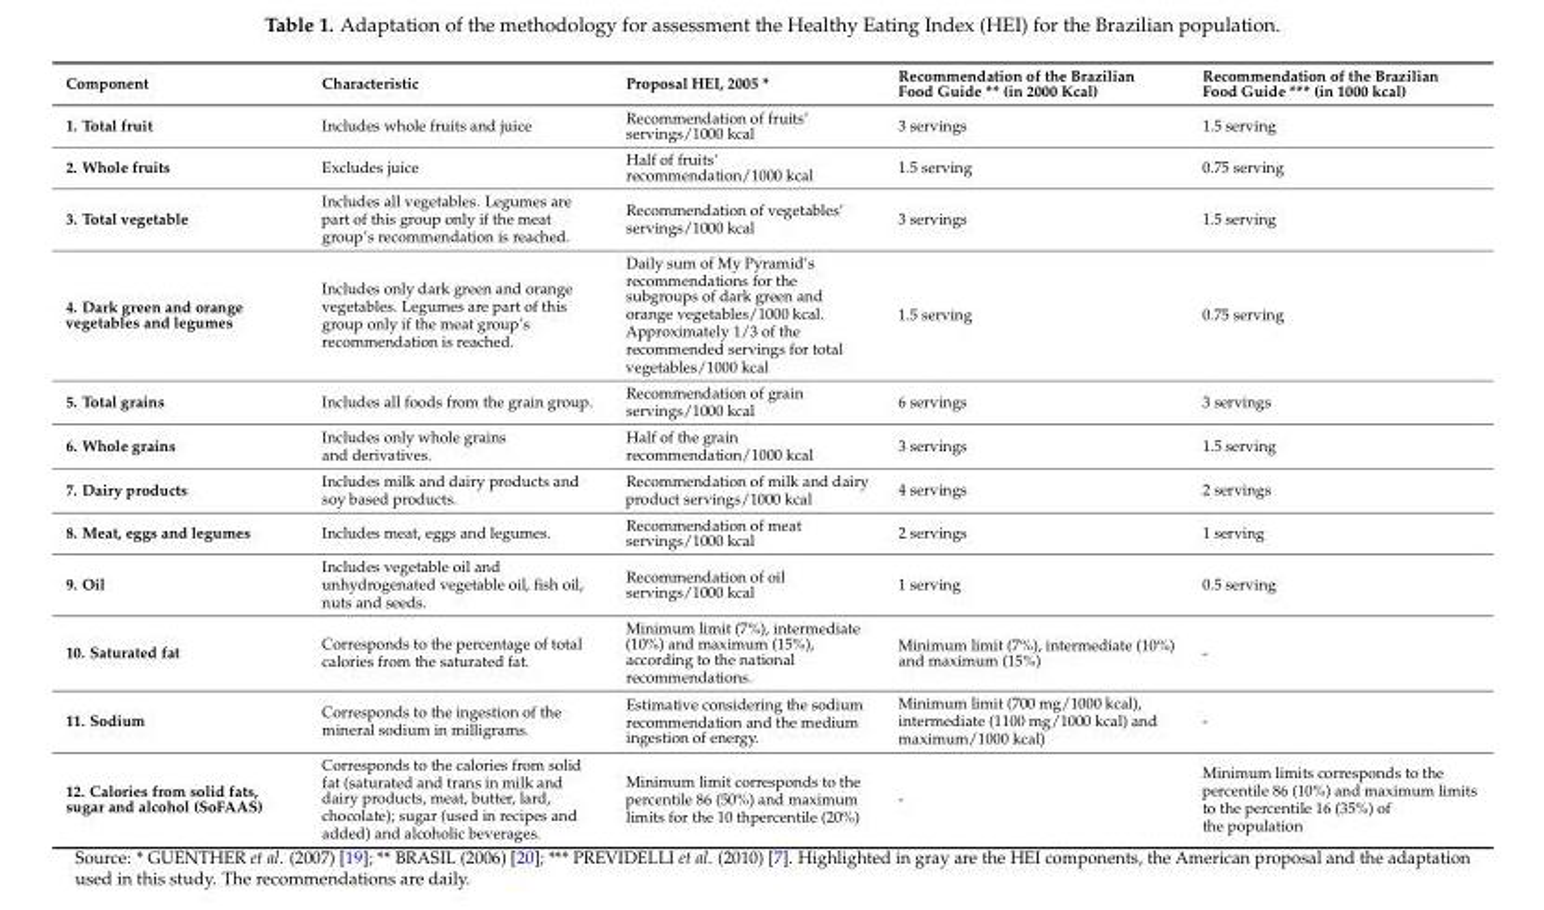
<table><thead><tr><td>Component</td><td>Characteristic</td><td>Proposal HEI, 2005 *</td><td>Recommendation of the Brazilian Food Guide ** (in 2000 Kcal)</td><td>Recommendation of the Brazilian Food Guide *** (in 1000 kcal)</td></tr></thead><tbody><tr><td>1. Total fruit</td><td>Includes whole fruits and juice</td><td>Recommendation of fruits’ servings/1000 kcal</td><td>3 servings</td><td>1.5 serving</td></tr><tr><td>2. Whole fruits</td><td>Excludes juice</td><td>Half of fruits’ recommendation/1000 kcal</td><td>1.5 serving</td><td>0.75 serving</td></tr><tr><td>3. Total vegetable</td><td>Includes all vegetables. Legumes are part of this group only if the meat group’s recommendation is reached.</td><td>Recommendation of vegetables’ servings/1000 kcal</td><td>3 servings</td><td>1.5 serving</td></tr><tr><td>4. Dark green and orange vegetables and legumes</td><td>Includes only dark green and orange vegetables. Legumes are part of this group only if the meat group’s recommendation is reached.</td><td>Daily sum of My Pyramid’s recommendations for the subgroups of dark green and orange vegetables/1000 kcal. Approximately 1/3 of the recommended servings for total vegetables/1000 kcal</td><td>1.5 serving</td><td>0.75 serving</td></tr><tr><td>5. Total grains</td><td>Includes all foods from the grain group.</td><td>Recommendation of grain servings/1000 kcal</td><td>6 servings</td><td>3 servings</td></tr><tr><td>6. Whole grains</td><td>Includes only whole grains and derivatives.</td><td>Half of the grain recommendation/1000 kcal</td><td>3 servings</td><td>1.5 serving</td></tr><tr><td>7. Dairy products</td><td>Includes milk and dairy products and soy based products.</td><td>Recommendation of milk and dairy product servings/1000 kcal</td><td>4 servings</td><td>2 servings</td></tr><tr><td>8. Meat, eggs and legumes</td><td>Includes meat, eggs and legumes.</td><td>Recommendation of meat servings/1000 kcal</td><td>2 servings</td><td>1 serving</td></tr><tr><td>9. Oil</td><td>Includes vegetable oil and unhydrogenated vegetable oil, fish oil, nuts and seeds.</td><td>Recommendation of oil servings/1000 kcal</td><td>1 serving</td><td>0.5 serving</td></tr><tr><td>10. Saturated fat</td><td>Corresponds to the percentage of total calories from the saturated fat.</td><td>Minimum limit (7%), intermediate (10%) and maximum (15%), according to the national recommendations.</td><td>Minimum limit (7%), intermediate (10%) and maximum (15%)</td><td>-</td></tr><tr><td>11. Sodium</td><td>Corresponds to the ingestion of the mineral sodium in milligrams.</td><td>Estimative considering the sodium recommendation and the medium ingestion of energy.</td><td>Minimum limit (700 mg/1000 kcal), intermediate (1100 mg/1000 kcal) and maximum/1000 kcal)</td><td>-</td></tr><tr><td>12. Calories from solid fats, sugar and alcohol (SoFAAS)</td><td>Corresponds to the calories from solid fat (saturated and trans in milk and dairy products, meat, butter, lard, chocolate); sugar (used in recipes and added) and alcoholic beverages.</td><td>Minimum limit corresponds to the percentile 86 (50%) and maximum limits for the 10 thpercentile (20%)</td><td>-</td><td>Minimum limits corresponds to the percentile 86 (10%) and maximum limits to the percentile 16 (35%) of the population</td></tr></tbody></table>